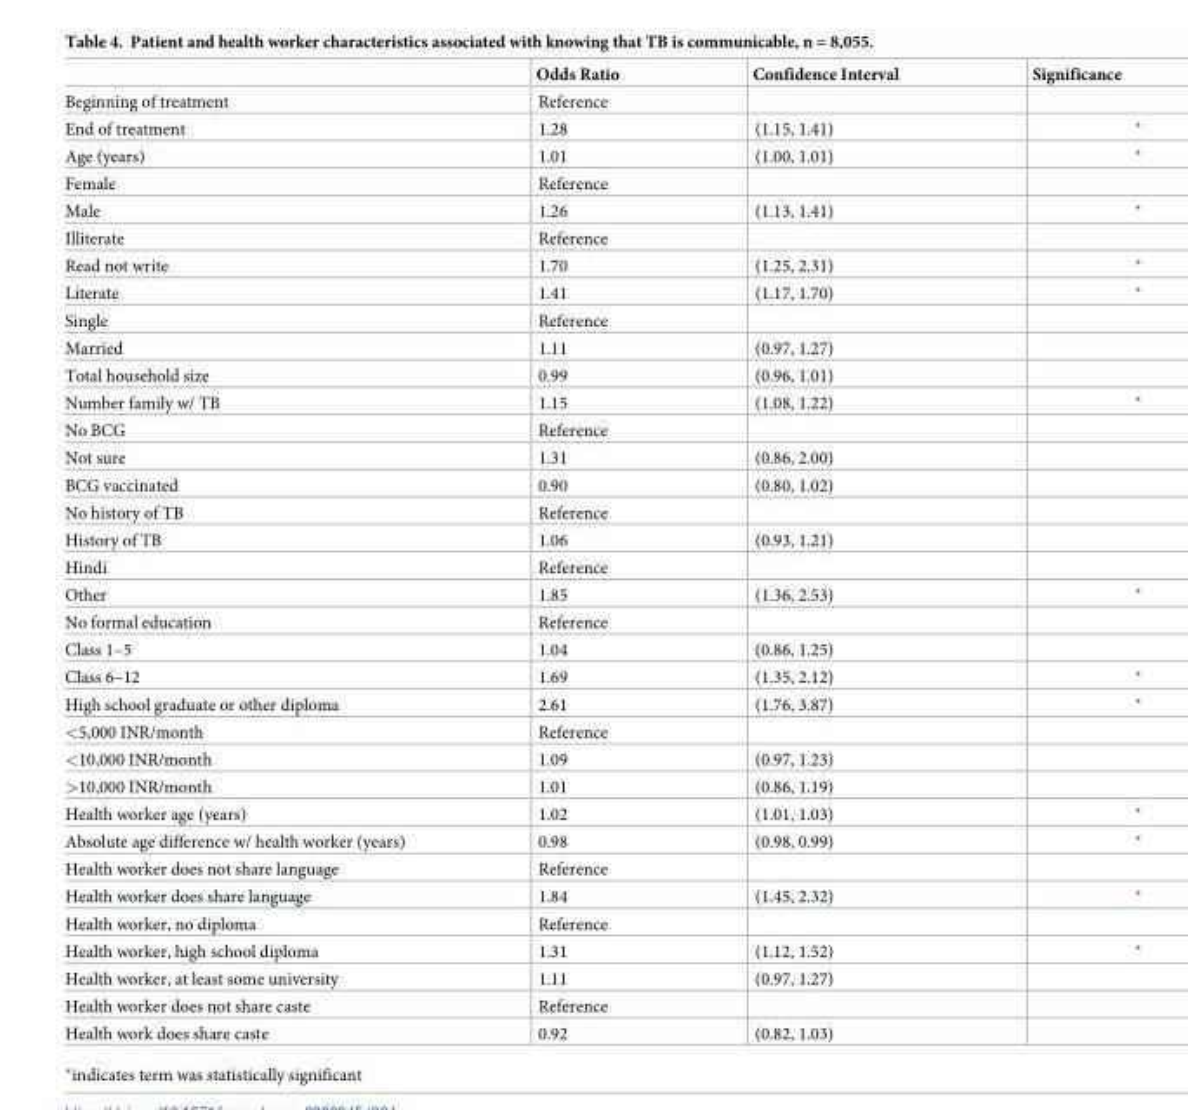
<table><thead><tr><td></td><td>Odds Ratio</td><td>Confidence Interval</td><td>Significance</td></tr></thead><tbody><tr><td>Beginning of treatment</td><td>Reference</td><td></td><td></td></tr><tr><td>End of treatment</td><td>1.28</td><td>(1.15, 1.41)</td><td></td></tr><tr><td>Age (years)</td><td>1.01</td><td>(1.00, 1.01)</td><td></td></tr><tr><td>Female</td><td>Reference</td><td></td><td></td></tr><tr><td>Male</td><td>1.26</td><td>(1.13, 1.41)</td><td></td></tr><tr><td>Illiterate</td><td>Reference</td><td></td><td></td></tr><tr><td>Read not write</td><td>1.70</td><td>(1.25, 2.31)</td><td></td></tr><tr><td>Literate</td><td>1.41</td><td>(1.17, 1.70)</td><td></td></tr><tr><td>Single</td><td>Reference</td><td></td><td></td></tr><tr><td>Married</td><td>1.11</td><td>(0.97, 1.27)</td><td></td></tr><tr><td>Total household size</td><td>0.99</td><td>(0.96, 1.01)</td><td></td></tr><tr><td>Number family w/ TB</td><td>1.15</td><td>(1.08, 1.22)</td><td></td></tr><tr><td>No BCG</td><td>Reference</td><td></td><td></td></tr><tr><td>Not sure</td><td>1.31</td><td>(0.86, 2.00)</td><td></td></tr><tr><td>BCG vaccinated</td><td>0.90</td><td>(0.80, 1.02)</td><td></td></tr><tr><td>No history of TB</td><td>Reference</td><td></td><td></td></tr><tr><td>History of TB</td><td>1.06</td><td>(0.93, 1.21)</td><td></td></tr><tr><td>Hindi</td><td>Reference</td><td></td><td></td></tr><tr><td>Other</td><td>1.85</td><td>(1.36, 2.53)</td><td></td></tr><tr><td>No formal education</td><td>Reference</td><td></td><td></td></tr><tr><td>Class 1–5</td><td>1.04</td><td>(0.86, 1.25)</td><td></td></tr><tr><td>Class 6–12</td><td>1.69</td><td>(1.35, 2.12)</td><td></td></tr><tr><td>High school graduate or other diploma</td><td>2.61</td><td>(1.76, 3.87)</td><td></td></tr><tr><td>&lt;5,000 INR/month</td><td>Reference</td><td></td><td></td></tr><tr><td>&lt;10,000 INR/month</td><td>1.09</td><td>(0.97, 1.23)</td><td></td></tr><tr><td>&gt;10,000 INR/month</td><td>1.01</td><td>(0.86, 1.19)</td><td></td></tr><tr><td>Health worker age (years)</td><td>1.02</td><td>(1.01, 1.03)</td><td></td></tr><tr><td>Absolute age difference w/ health worker (years)</td><td>0.98</td><td>(0.98, 0.99)</td><td></td></tr><tr><td>Health worker does not share language</td><td>Reference</td><td></td><td></td></tr><tr><td>Health worker does share language</td><td>1.84</td><td>(1.45, 2.32)</td><td></td></tr><tr><td>Health worker, no diploma</td><td>Reference</td><td></td><td></td></tr><tr><td>Health worker, high school diploma</td><td>1.31</td><td>(1.12, 1.52)</td><td></td></tr><tr><td>Health worker, at least some university</td><td>1.11</td><td>(0.97, 1.27)</td><td></td></tr><tr><td>Health worker does not share caste</td><td>Reference</td><td></td><td></td></tr><tr><td>Health work does share caste</td><td>0.92</td><td>(0.82, 1.03)</td><td></td></tr></tbody></table>